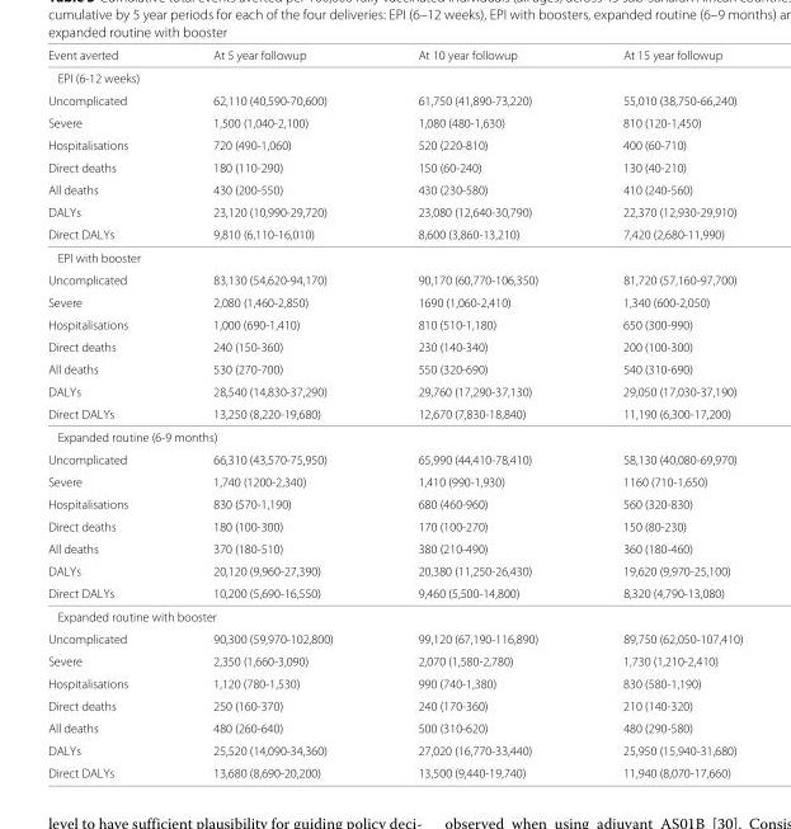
<table><thead><tr><td>Event averted</td><td>At 5 year followup</td><td>At 10 year followup</td><td>At 15 year followup</td></tr></thead><tbody><tr><td colspan="4">EPI (6-12 weeks)</td></tr><tr><td>Uncomplicated</td><td>62,110 (40,590-70,600)</td><td>61,750 (41,890-73,220)</td><td>55,010 (38,750-66,240)</td></tr><tr><td>Severe</td><td>1,500 (1,040-2,100)</td><td>1,080 (480-1,630)</td><td>810 (120-1,450)</td></tr><tr><td>Hospitalisations</td><td>720 (490-1,060)</td><td>520 (220-810)</td><td>400 (60-710)</td></tr><tr><td>Direct deaths</td><td>180 (110-290)</td><td>150 (60-240)</td><td>130 (40-210)</td></tr><tr><td>All deaths</td><td>430 (200-550)</td><td>430 (230-580)</td><td>410 (240-560)</td></tr><tr><td>DALYs</td><td>23,120 (10,990-29,720)</td><td>23,080 (12,640-30,790)</td><td>22,370 (12,930-29,910)</td></tr><tr><td>Direct DALYs</td><td>9,810 (6,110-16,010)</td><td>8,600 (3,860-13,210)</td><td>7,420 (2,680-11,990)</td></tr><tr><td colspan="4">EPI with booster</td></tr><tr><td>Uncomplicated</td><td>83,130 (54,620-94,170)</td><td>90,170 (60,770-106,350)</td><td>81,720 (57,160-97,700)</td></tr><tr><td>Severe</td><td>2,080 (1,460-2,850)</td><td>1690 (1,060-2,410)</td><td>1,340 (600-2,050)</td></tr><tr><td>Hospitalisations</td><td>1,000 (690-1,410)</td><td>810 (510-1,180)</td><td>650 (300-990)</td></tr><tr><td>Direct deaths</td><td>240 (150-360)</td><td>230 (140-340)</td><td>200 (100-300)</td></tr><tr><td>All deaths</td><td>530 (270-700)</td><td>550 (320-690)</td><td>540 (310-690)</td></tr><tr><td>DALYs</td><td>28,540 (14,830-37,290)</td><td>29,760 (17,290-37,130)</td><td>29,050 (17,030-37,190)</td></tr><tr><td>Direct DALYs</td><td>13,250 (8,220-19,680)</td><td>12,670 (7,830-18,840)</td><td>11,190 (6,300-17,200)</td></tr><tr><td colspan="4">Expanded routine (6-9 months)</td></tr><tr><td>Uncomplicated</td><td>66,310 (43,570-75,950)</td><td>65,990 (44,410-78,410)</td><td>58,130 (40,080-69,970)</td></tr><tr><td>Severe</td><td>1,740 (1200-2,340)</td><td>1,410 (990-1,930)</td><td>1160 (710-1,650)</td></tr><tr><td>Hospitalisations</td><td>830 (570-1,190)</td><td>680 (460-960)</td><td>560 (320-830)</td></tr><tr><td>Direct deaths</td><td>180 (100-300)</td><td>170 (100-270)</td><td>150 (80-230)</td></tr><tr><td>All deaths</td><td>370 (180-510)</td><td>380 (210-490)</td><td>360 (180-460)</td></tr><tr><td>DALYs</td><td>20,120 (9,960-27,390)</td><td>20,380 (11,250-26,430)</td><td>19,620 (9,970-25,100)</td></tr><tr><td>Direct DALYs</td><td>10,200 (5,690-16,550)</td><td>9,460 (5,500-14,800)</td><td>8,320 (4,790-13,080)</td></tr><tr><td colspan="4">Expanded routine with booster</td></tr><tr><td>Uncomplicated</td><td>90,300 (59,970-102,800)</td><td>99,120 (67,190-116,890)</td><td>89,750 (62,050-107,410)</td></tr><tr><td>Severe</td><td>2,350 (1,660-3,090)</td><td>2,070 (1,580-2,780)</td><td>1,730 (1,210-2,410)</td></tr><tr><td>Hospitalisations</td><td>1,120 (780-1,530)</td><td>990 (740-1,380)</td><td>830 (580-1,190)</td></tr><tr><td>Direct deaths</td><td>250 (160-370)</td><td>240 (170-360)</td><td>210 (140-320)</td></tr><tr><td>All deaths</td><td>480 (260-640)</td><td>500 (310-620)</td><td>480 (290-580)</td></tr><tr><td>DALYs</td><td>25,520 (14,090-34,360)</td><td>27,020 (16,770-33,440)</td><td>25,950 (15,940-31,680)</td></tr><tr><td>Direct DALYs</td><td>13,680 (8,690-20,200)</td><td>13,500 (9,440-19,740)</td><td>11,940 (8,070-17,660)</td></tr></tbody></table>